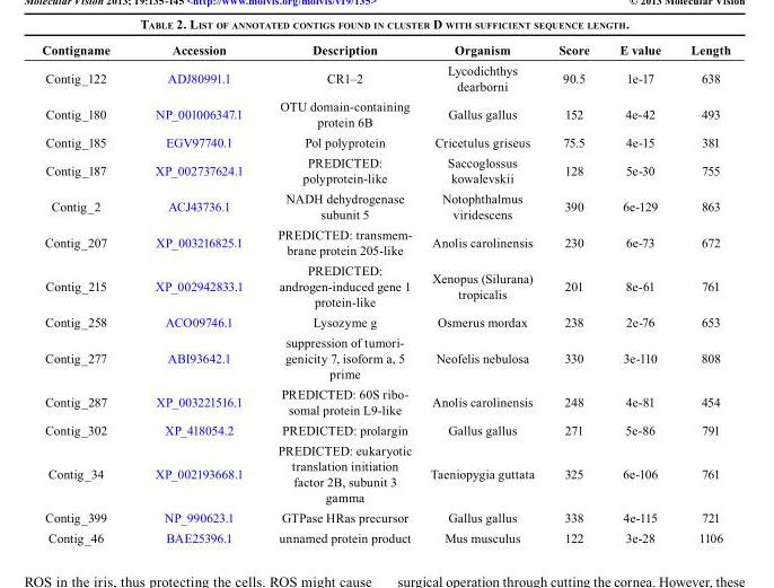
<table><thead><tr><td>Contigname</td><td>Accession</td><td>Description</td><td>Organism</td><td>Score</td><td>E value</td><td>Length</td></tr></thead><tbody><tr><td>Contig_122</td><td>ADJ80991.1</td><td>CR1–2</td><td>Lycodichthys dearborni</td><td>90.5</td><td>1e-17</td><td>638</td></tr><tr><td>Contig_180</td><td>NP_001006347.1</td><td>OTU domain-containing protein 6B</td><td>Gallus gallus</td><td>152</td><td>4e-42</td><td>493</td></tr><tr><td>Contig_185</td><td>EGV97740.1</td><td>Pol polyprotein</td><td>Cricetulus griseus</td><td>75.5</td><td>4e-15</td><td>381</td></tr><tr><td>Contig_187</td><td>XP_002737624.1</td><td>PREDICTED: polyprotein-like</td><td>Saccoglossus kowalevskii</td><td>128</td><td>5e-30</td><td>755</td></tr><tr><td>Contig_2</td><td>ACJ43736.1</td><td>NADH dehydrogenase subunit 5</td><td>Notophthalmus viridescens</td><td>390</td><td>6e-129</td><td>863</td></tr><tr><td>Contig_207</td><td>XP_003216825.1</td><td>PREDICTED: transmem- brane protein 205-like</td><td>Anolis carolinensis</td><td>230</td><td>6e-73</td><td>672</td></tr><tr><td>Contig_215</td><td>XP_002942833.1</td><td>PREDICTED: androgen-induced gene 1 protein-like</td><td>Xenopus (Silurana) tropicalis</td><td>201</td><td>8e-61</td><td>761</td></tr><tr><td>Contig_258</td><td>ACO09746.1</td><td>Lysozyme g</td><td>Osmerus mordax</td><td>238</td><td>2e-76</td><td>653</td></tr><tr><td>Contig_277</td><td>ABI93642.1</td><td>suppression of tumori- genicity 7, isoform a, 5 prime</td><td>Neofelis nebulosa</td><td>330</td><td>3e-110</td><td>808</td></tr><tr><td>Contig_287</td><td>XP_003221516.1</td><td>PREDICTED: 60S ribo- somal protein L9-like</td><td>Anolis carolinensis</td><td>248</td><td>4e-81</td><td>454</td></tr><tr><td>Contig_302</td><td>XP_418054.2</td><td>PREDICTED: prolargin</td><td>Gallus gallus</td><td>271</td><td>5e-86</td><td>791</td></tr><tr><td>Contig_34</td><td>XP_002193668.1</td><td>PREDICTED: eukaryotic translation initiation factor 2B, subunit 3 gamma</td><td>Taeniopygia guttata</td><td>325</td><td>6e-106</td><td>761</td></tr><tr><td>Contig_399</td><td>NP_990623.1</td><td>GTPase HRas precursor</td><td>Gallus gallus</td><td>338</td><td>4e-115</td><td>721</td></tr><tr><td>Contig_46</td><td>BAE25396.1</td><td>unnamed protein product</td><td>Mus musculus</td><td>122</td><td>3e-28</td><td>1106</td></tr></tbody></table>